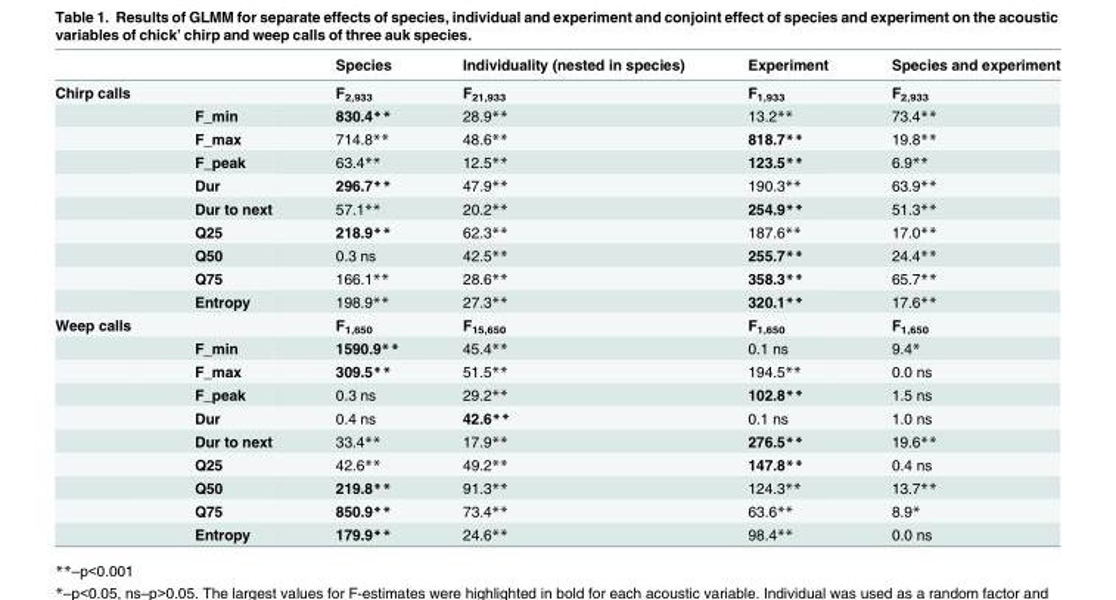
<table><thead><tr><td></td><td></td><td>Species</td><td>Individuality (nested in species)</td><td>Experiment</td><td>Species and experiment</td></tr></thead><tbody><tr><td rowspan="10">Chirp calls</td><td></td><td>F<sub>2,933</sub></td><td>F<sub>21,933</sub></td><td>F<sub>1,933</sub></td><td>F<sub>2,933</sub></td></tr><tr><td>F_min</td><td>830.4**</td><td>28.9**</td><td>13.2**</td><td>73.4**</td></tr><tr><td>F_max</td><td>714.8**</td><td>48.6**</td><td>818.7**</td><td>19.8**</td></tr><tr><td>F_peak</td><td>63.4**</td><td>12.5**</td><td>123.5**</td><td>6.9**</td></tr><tr><td>Dur</td><td>296.7**</td><td>47.9**</td><td>190.3**</td><td>63.9**</td></tr><tr><td>Dur to next</td><td>57.1**</td><td>20.2**</td><td>254.9**</td><td>51.3**</td></tr><tr><td>Q25</td><td>218.9**</td><td>62.3**</td><td>187.6**</td><td>17.0**</td></tr><tr><td>Q50</td><td>0.3 ns</td><td>42.5**</td><td>255.7**</td><td>24.4**</td></tr><tr><td>Q75</td><td>166.1**</td><td>28.6**</td><td>358.3**</td><td>65.7**</td></tr><tr><td>Entropy</td><td>198.9**</td><td>27.3**</td><td>320.1**</td><td>17.6**</td></tr><tr><td rowspan="10">Weep calls</td><td></td><td>F<sub>1,650</sub></td><td>F<sub>15,650</sub></td><td>F<sub>1,650</sub></td><td>F<sub>1,650</sub></td></tr><tr><td>F_min</td><td>1590.9**</td><td>45.4**</td><td>0.1 ns</td><td>9.4*</td></tr><tr><td>F_max</td><td>309.5**</td><td>51.5**</td><td>194.5**</td><td>0.0 ns</td></tr><tr><td>F_peak</td><td>0.3 ns</td><td>29.2**</td><td>102.8**</td><td>1.5 ns</td></tr><tr><td>Dur</td><td>0.4 ns</td><td>42.6**</td><td>0.1 ns</td><td>1.0 ns</td></tr><tr><td>Dur to next</td><td>33.4**</td><td>17.9**</td><td>276.5**</td><td>19.6**</td></tr><tr><td>Q25</td><td>42.6**</td><td>49.2**</td><td>147.8**</td><td>0.4 ns</td></tr><tr><td>Q50</td><td>219.8**</td><td>91.3**</td><td>124.3**</td><td>13.7**</td></tr><tr><td>Q75</td><td>850.9**</td><td>73.4**</td><td>63.6**</td><td>8.9*</td></tr><tr><td>Entropy</td><td>179.9**</td><td>24.6**</td><td>98.4**</td><td>0.0 ns</td></tr></tbody></table>